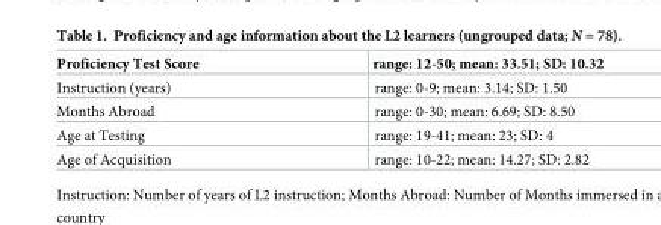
<table><thead><tr><td>Proficiency Test Score</td><td>range: 12-50; mean: 33.51; SD: 10.32</td></tr></thead><tbody><tr><td>Instruction (years)</td><td>range: 0-9; mean: 3.14; SD: 1.50</td></tr><tr><td>Months Abroad</td><td>range: 0-30; mean: 6.69; SD: 8.50</td></tr><tr><td>Age at Testing</td><td>range: 19-41; mean: 23; SD: 4</td></tr><tr><td>Age of Acquisition</td><td>range: 10-22; mean: 14.27; SD: 2.82</td></tr></tbody></table>